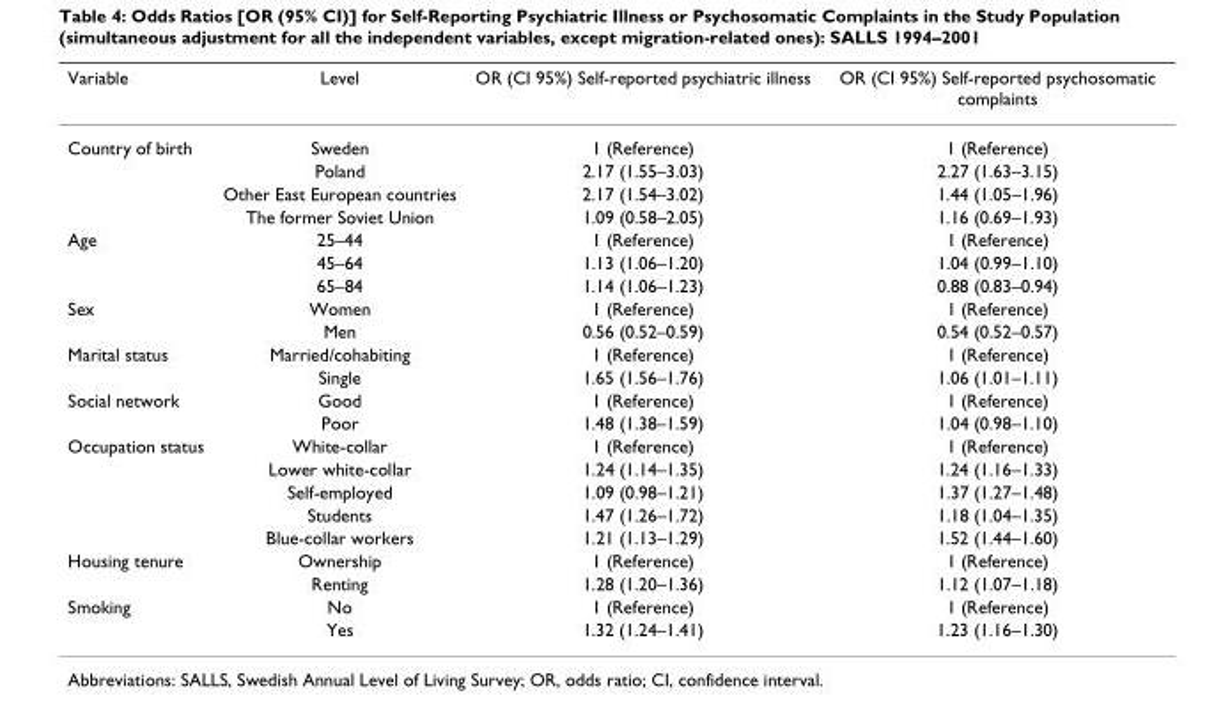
<table><thead><tr><td>Variable</td><td>Level</td><td>OR (CI 95%) Self-reported psychiatric illness</td><td>OR (CI 95%) Self-reported psychosomatic complaints</td></tr></thead><tbody><tr><td rowspan="4">Country of birth</td><td>Sweden</td><td>1 (Reference)</td><td>1 (Reference)</td></tr><tr><td>Poland</td><td>2.17 (1.55–3.03)</td><td>2.27 (1.63–3.15)</td></tr><tr><td>Other East European countries</td><td>2.17 (1.54–3.02)</td><td>1.44 (1.05–1.96)</td></tr><tr><td>The former Soviet Union</td><td>1.09 (0.58–2.05)</td><td>1.16 (0.69–1.93)</td></tr><tr><td rowspan="3">Age</td><td>25–44</td><td>1 (Reference)</td><td>1 (Reference)</td></tr><tr><td>45–64</td><td>1.13 (1.06–1.20)</td><td>1.04 (0.99–1.10)</td></tr><tr><td>65–84</td><td>1.14 (1.06–1.23)</td><td>0.88 (0.83–0.94)</td></tr><tr><td rowspan="2">Sex</td><td>Women</td><td>1 (Reference)</td><td>1 (Reference)</td></tr><tr><td>Men</td><td>0.56 (0.52–0.59)</td><td>0.54 (0.52–0.57)</td></tr><tr><td rowspan="2">Marital status</td><td>Married/cohabiting</td><td>1 (Reference)</td><td>1 (Reference)</td></tr><tr><td>Single</td><td>1.65 (1.56–1.76)</td><td>1.06 (1.01–1.11)</td></tr><tr><td rowspan="2">Social network</td><td>Good</td><td>1 (Reference)</td><td>1 (Reference)</td></tr><tr><td>Poor</td><td>1.48 (1.38–1.59)</td><td>1.04 (0.98–1.10)</td></tr><tr><td rowspan="5">Occupation status</td><td>White-collar</td><td>1 (Reference)</td><td>1 (Reference)</td></tr><tr><td>Lower white-collar</td><td>1.24 (1.14–1.35)</td><td>1.24 (1.16–1.33)</td></tr><tr><td>Self-employed</td><td>1.09 (0.98–1.21)</td><td>1.37 (1.27–1.48)</td></tr><tr><td>Students</td><td>1.47 (1.26–1.72)</td><td>1.18 (1.04–1.35)</td></tr><tr><td>Blue-collar workers</td><td>1.21 (1.13–1.29)</td><td>1.52 (1.44–1.60)</td></tr><tr><td rowspan="2">Housing tenure</td><td>Ownership</td><td>1 (Reference)</td><td>1 (Reference)</td></tr><tr><td>Renting</td><td>1.28 (1.20–1.36)</td><td>1.12 (1.07–1.18)</td></tr><tr><td rowspan="2">Smoking</td><td>No</td><td>1 (Reference)</td><td>1 (Reference)</td></tr><tr><td>Yes</td><td>1.32 (1.24–1.41)</td><td>1.23 (1.16–1.30)</td></tr></tbody></table>